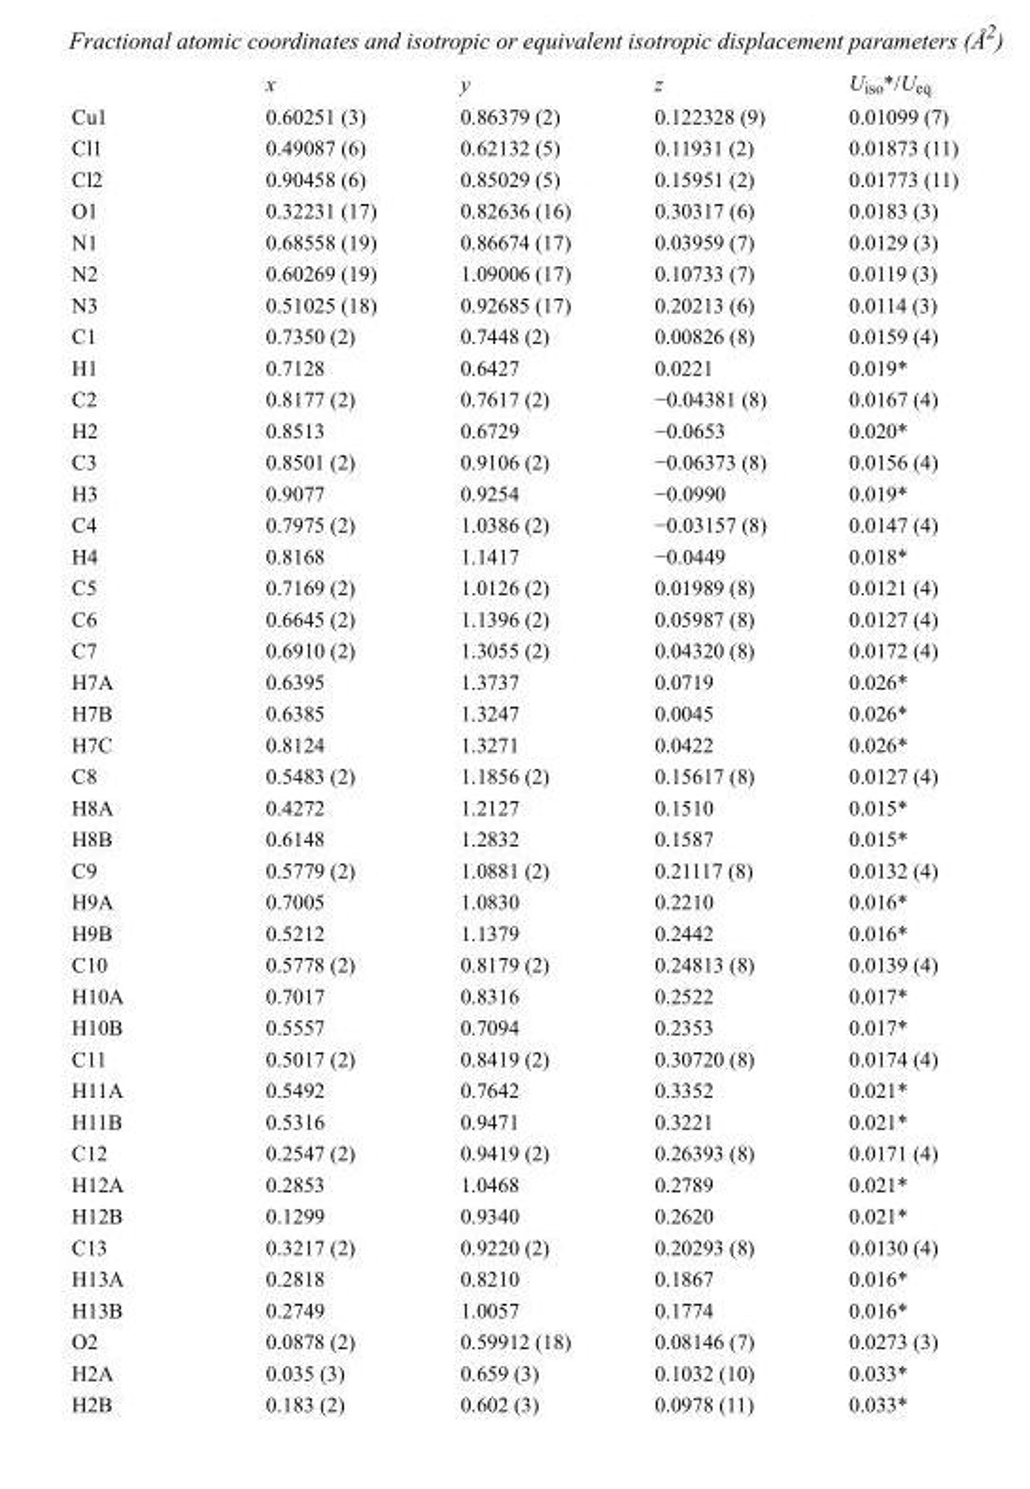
<table><thead><tr><td></td><td>x</td><td>y</td><td>z</td><td>U<sub>iso</sub>*/U<sub>eq</sub></td></tr></thead><tbody><tr><td>Cu1</td><td>0.60251 (3)</td><td>0.86379 (2)</td><td>0.122328 (9)</td><td>0.01099 (7)</td></tr><tr><td>Cl1</td><td>0.49087 (6)</td><td>0.62132 (5)</td><td>0.11931 (2)</td><td>0.01873 (11)</td></tr><tr><td>Cl2</td><td>0.90458 (6)</td><td>0.85029 (5)</td><td>0.15951 (2)</td><td>0.01773 (11)</td></tr><tr><td>O1</td><td>0.32231 (17)</td><td>0.82636 (16)</td><td>0.30317 (6)</td><td>0.0183 (3)</td></tr><tr><td>N1</td><td>0.68558 (19)</td><td>0.86674 (17)</td><td>0.03959 (7)</td><td>0.0129 (3)</td></tr><tr><td>N2</td><td>0.60269 (19)</td><td>1.09006 (17)</td><td>0.10733 (7)</td><td>0.0119 (3)</td></tr><tr><td>N3</td><td>0.51025 (18)</td><td>0.92685 (17)</td><td>0.20213 (6)</td><td>0.0114 (3)</td></tr><tr><td>C1</td><td>0.7350 (2)</td><td>0.7448 (2)</td><td>0.00826 (8)</td><td>0.0159 (4)</td></tr><tr><td>H1</td><td>0.7128</td><td>0.6427</td><td>0.0221</td><td>0.019*</td></tr><tr><td>C2</td><td>0.8177 (2)</td><td>0.7617 (2)</td><td>−0.04381 (8)</td><td>0.0167 (4)</td></tr><tr><td>H2</td><td>0.8513</td><td>0.6729</td><td>−0.0653</td><td>0.020*</td></tr><tr><td>C3</td><td>0.8501 (2)</td><td>0.9106 (2)</td><td>−0.06373 (8)</td><td>0.0156 (4)</td></tr><tr><td>H3</td><td>0.9077</td><td>0.9254</td><td>−0.0990</td><td>0.019*</td></tr><tr><td>C4</td><td>0.7975 (2)</td><td>1.0386 (2)</td><td>−0.03157 (8)</td><td>0.0147 (4)</td></tr><tr><td>H4</td><td>0.8168</td><td>1.1417</td><td>−0.0449</td><td>0.018*</td></tr><tr><td>C5</td><td>0.7169 (2)</td><td>1.0126 (2)</td><td>0.01989 (8)</td><td>0.0121 (4)</td></tr><tr><td>C6</td><td>0.6645 (2)</td><td>1.1396 (2)</td><td>0.05987 (8)</td><td>0.0127 (4)</td></tr><tr><td>C7</td><td>0.6910 (2)</td><td>1.3055 (2)</td><td>0.04320 (8)</td><td>0.0172 (4)</td></tr><tr><td>H7A</td><td>0.6395</td><td>1.3737</td><td>0.0719</td><td>0.026*</td></tr><tr><td>H7B</td><td>0.6385</td><td>1.3247</td><td>0.0045</td><td>0.026*</td></tr><tr><td>H7C</td><td>0.8124</td><td>1.3271</td><td>0.0422</td><td>0.026*</td></tr><tr><td>C8</td><td>0.5483 (2)</td><td>1.1856 (2)</td><td>0.15617 (8)</td><td>0.0127 (4)</td></tr><tr><td>H8A</td><td>0.4272</td><td>1.2127</td><td>0.1510</td><td>0.015*</td></tr><tr><td>H8B</td><td>0.6148</td><td>1.2832</td><td>0.1587</td><td>0.015*</td></tr><tr><td>C9</td><td>0.5779 (2)</td><td>1.0881 (2)</td><td>0.21117 (8)</td><td>0.0132 (4)</td></tr><tr><td>H9A</td><td>0.7005</td><td>1.0830</td><td>0.2210</td><td>0.016*</td></tr><tr><td>H9B</td><td>0.5212</td><td>1.1379</td><td>0.2442</td><td>0.016*</td></tr><tr><td>C10</td><td>0.5778 (2)</td><td>0.8179 (2)</td><td>0.24813 (8)</td><td>0.0139 (4)</td></tr><tr><td>H10A</td><td>0.7017</td><td>0.8316</td><td>0.2522</td><td>0.017*</td></tr><tr><td>H10B</td><td>0.5557</td><td>0.7094</td><td>0.2353</td><td>0.017*</td></tr><tr><td>C11</td><td>0.5017 (2)</td><td>0.8419 (2)</td><td>0.30720 (8)</td><td>0.0174 (4)</td></tr><tr><td>H11A</td><td>0.5492</td><td>0.7642</td><td>0.3352</td><td>0.021*</td></tr><tr><td>H11B</td><td>0.5316</td><td>0.9471</td><td>0.3221</td><td>0.021*</td></tr><tr><td>C12</td><td>0.2547 (2)</td><td>0.9419 (2)</td><td>0.26393 (8)</td><td>0.0171 (4)</td></tr><tr><td>H12A</td><td>0.2853</td><td>1.0468</td><td>0.2789</td><td>0.021*</td></tr><tr><td>H12B</td><td>0.1299</td><td>0.9340</td><td>0.2620</td><td>0.021*</td></tr><tr><td>C13</td><td>0.3217 (2)</td><td>0.9220 (2)</td><td>0.20293 (8)</td><td>0.0130 (4)</td></tr><tr><td>H13A</td><td>0.2818</td><td>0.8210</td><td>0.1867</td><td>0.016*</td></tr><tr><td>H13B</td><td>0.2749</td><td>1.0057</td><td>0.1774</td><td>0.016*</td></tr><tr><td>O2</td><td>0.0878 (2)</td><td>0.59912 (18)</td><td>0.08146 (7)</td><td>0.0273 (3)</td></tr><tr><td>H2A</td><td>0.035 (3)</td><td>0.659 (3)</td><td>0.1032 (10)</td><td>0.033*</td></tr><tr><td>H2B</td><td>0.183 (2)</td><td>0.602 (3)</td><td>0.0978 (11)</td><td>0.033*</td></tr></tbody></table>